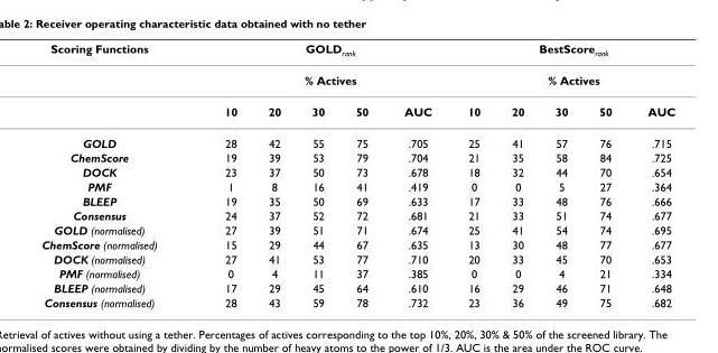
<table><thead><tr><td rowspan="3">Scoring Functions</td><td rowspan="2" colspan="5">GOLDrank % Actives</td><td rowspan="2" colspan="5">BestScorerank % Actives</td></tr><tr></tr><tr><td>10</td><td>20</td><td>30</td><td>50</td><td>AUC</td><td>10</td><td>20</td><td>30</td><td>50</td><td>AUC</td></tr></thead><tbody><tr><td>GOLD</td><td>28</td><td>42</td><td>55</td><td>75</td><td>.705</td><td>25</td><td>41</td><td>57</td><td>76</td><td>.715</td></tr><tr><td>ChemScore</td><td>19</td><td>39</td><td>53</td><td>79</td><td>.704</td><td>21</td><td>35</td><td>58</td><td>84</td><td>.725</td></tr><tr><td>DOCK</td><td>23</td><td>37</td><td>50</td><td>73</td><td>.678</td><td>18</td><td>32</td><td>44</td><td>70</td><td>.654</td></tr><tr><td>PMF</td><td>1</td><td>8</td><td>16</td><td>41</td><td>.419</td><td>0</td><td>0</td><td>5</td><td>27</td><td>.364</td></tr><tr><td>BLEEP</td><td>19</td><td>35</td><td>50</td><td>69</td><td>.633</td><td>17</td><td>33</td><td>48</td><td>76</td><td>.666</td></tr><tr><td>Consensus</td><td>24</td><td>37</td><td>52</td><td>72</td><td>.681</td><td>21</td><td>33</td><td>51</td><td>74</td><td>.677</td></tr><tr><td>GOLD (normalised)</td><td>27</td><td>39</td><td>51</td><td>71</td><td>.674</td><td>25</td><td>41</td><td>54</td><td>74</td><td>.695</td></tr><tr><td>ChemScore (normalised)</td><td>15</td><td>29</td><td>44</td><td>67</td><td>.635</td><td>13</td><td>30</td><td>48</td><td>77</td><td>.677</td></tr><tr><td>DOCK (normalised)</td><td>27</td><td>41</td><td>53</td><td>77</td><td>.710</td><td>20</td><td>33</td><td>45</td><td>70</td><td>.653</td></tr><tr><td>PMF (normalised)</td><td>0</td><td>4</td><td>11</td><td>37</td><td>.385</td><td>0</td><td>0</td><td>4</td><td>21</td><td>.334</td></tr><tr><td>BLEEP (normalised)</td><td>17</td><td>29</td><td>45</td><td>64</td><td>.610</td><td>16</td><td>29</td><td>46</td><td>71</td><td>.648</td></tr><tr><td>Consensus (normalised)</td><td>28</td><td>43</td><td>59</td><td>78</td><td>.732</td><td>23</td><td>36</td><td>49</td><td>75</td><td>.682</td></tr></tbody></table>